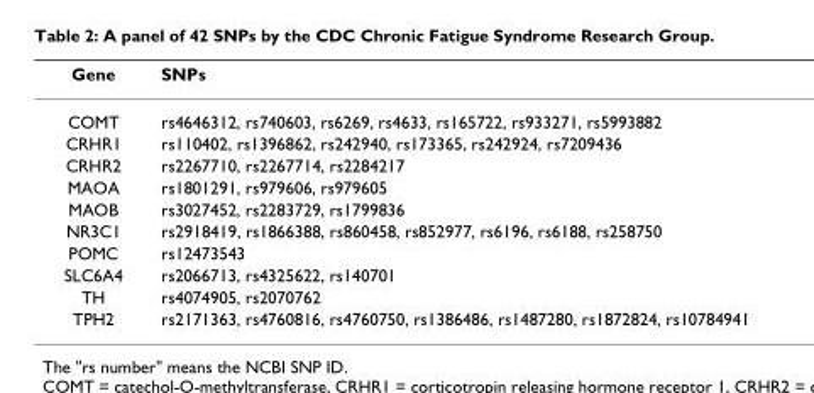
<table><thead><tr><td>Gene</td><td>SNPs</td></tr></thead><tbody><tr><td>COMT</td><td>rs4646312, rs740603, rs6269, rs4633, rs165722, rs933271, rs5993882</td></tr><tr><td>CRHR1</td><td>rs110402, rs1396862, rs242940, rs173365, rs242924, rs7209436</td></tr><tr><td>CRHR2</td><td>rs2267710, rs2267714, rs2284217</td></tr><tr><td>MAOA</td><td>rs1801291, rs979606, rs979605</td></tr><tr><td>MAOB</td><td>rs3027452, rs2283729, rs1799836</td></tr><tr><td>NR3C1</td><td>rs2918419, rs1866388, rs860458, rs852977, rs6196, rs6188, rs258750</td></tr><tr><td>POMC</td><td>rs12473543</td></tr><tr><td>SLC6A4</td><td>rs2066713, rs4325622, rs140701</td></tr><tr><td>TH</td><td>rs4074905, rs2070762</td></tr><tr><td>TPH2</td><td>rs2171363, rs4760816, rs4760750, rs1386486, rs1487280, rs1872824, rs10784941</td></tr></tbody></table>